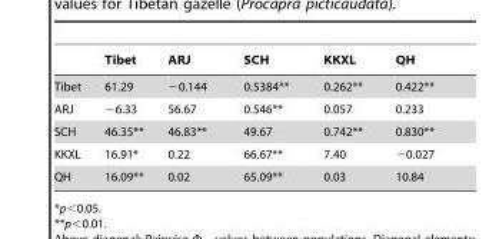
<table><thead><tr><td></td><td>Tibet</td><td>ARJ</td><td>SCH</td><td>KKXL</td><td>QH</td></tr></thead><tbody><tr><td>Tibet</td><td>61.29</td><td>−0.144</td><td>0.5384**</td><td>0.262**</td><td>0.422**</td></tr><tr><td>ARJ</td><td>−6.33</td><td>56.67</td><td>0.546**</td><td>0.057</td><td>0.233</td></tr><tr><td>SCH</td><td>46.35**</td><td>46.83**</td><td>49.67</td><td>0.742**</td><td>0.830**</td></tr><tr><td>KKXL</td><td>16.91*</td><td>0.22</td><td>66.67**</td><td>7.40</td><td>−0.027</td></tr><tr><td>QH</td><td>16.09**</td><td>0.02</td><td>65.09**</td><td>0.03</td><td>10.84</td></tr></tbody></table>